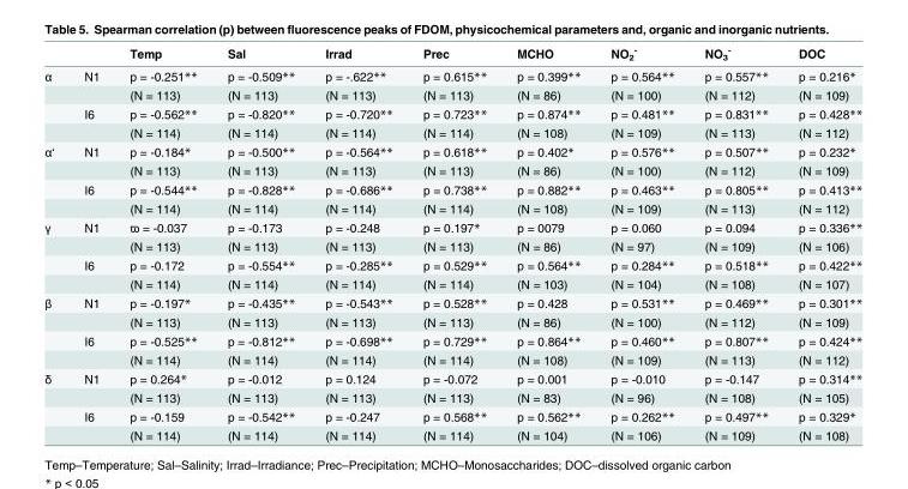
<table><thead><tr><td></td><td></td><td>Temp</td><td>Sal</td><td>Irrad</td><td>Prec</td><td>MCHO</td><td>NO<sub>2</sub> <sup>-</sup></td><td>NO<sub>3</sub> <sup>-</sup></td><td>DOC</td></tr></thead><tbody><tr><td rowspan="4">α</td><td>N1</td><td>p = -0.251**</td><td>p = -0.509**</td><td>p = -.622**</td><td>p = 0.615**</td><td>p = 0.399**</td><td>p = 0.564**</td><td>p = 0.557**</td><td>p = 0.216*</td></tr><tr><td></td><td>(N = 113)</td><td>(N = 113)</td><td>(N = 113)</td><td>(N = 113)</td><td>(N = 86)</td><td>(N = 100)</td><td>(N = 112)</td><td>(N = 109)</td></tr><tr><td>I6</td><td>p = -0.562**</td><td>p = -0.820**</td><td>p = -0.720**</td><td>p = 0.723**</td><td>p = 0.874**</td><td>p = 0.481**</td><td>p = 0.831**</td><td>p = 0.428**</td></tr><tr><td></td><td>(N = 114)</td><td>(N = 114)</td><td>(N = 114)</td><td>(N = 114)</td><td>(N = 108)</td><td>(N = 109)</td><td>(N = 113)</td><td>(N = 112)</td></tr><tr><td rowspan="4">α‘</td><td>N1</td><td>p = -0.184*</td><td>p = -0.500**</td><td>p = -0.564**</td><td>p = 0.618**</td><td>p = 0.402*</td><td>p = 0.576**</td><td>p = 0.507**</td><td>p = 0.232*</td></tr><tr><td></td><td>(N = 113)</td><td>(N = 113)</td><td>(N = 113)</td><td>(N = 113)</td><td>(N = 86)</td><td>(N = 100)</td><td>(N = 112)</td><td>(N = 109)</td></tr><tr><td>I6</td><td>p = -0.544**</td><td>p = -0.828**</td><td>p = -0.686**</td><td>p = 0.738**</td><td>p = 0.882**</td><td>p = 0.463**</td><td>p = 0.805**</td><td>p = 0.413**</td></tr><tr><td></td><td>(N = 114)</td><td>(N = 114)</td><td>(N = 114)</td><td>(N = 114)</td><td>(N = 108)</td><td>(N = 109)</td><td>(N = 113)</td><td>(N = 112)</td></tr><tr><td rowspan="4">γ</td><td>N1</td><td>ϖ = -0.037</td><td>p = -0.173</td><td>p = -0.248</td><td>p = 0.197*</td><td>p = 0079</td><td>p = 0.060</td><td>p = 0.094</td><td>p = 0.336**</td></tr><tr><td></td><td>(N = 113)</td><td>(N = 113)</td><td>(N = 113)</td><td>(N = 113)</td><td>(N = 86)</td><td>(N = 97)</td><td>(N = 109)</td><td>(N = 106)</td></tr><tr><td>I6</td><td>p = -0.172</td><td>p = -0.554**</td><td>p = -0.285**</td><td>p = 0.529**</td><td>p = 0.564**</td><td>p = 0.284**</td><td>p = 0.518**</td><td>p = 0.422**</td></tr><tr><td></td><td>(N = 114)</td><td>(N = 114)</td><td>(N = 114)</td><td>(N = 114)</td><td>(N = 103)</td><td>(N = 104)</td><td>(N = 108)</td><td>(N = 107)</td></tr><tr><td rowspan="4">β</td><td>N1</td><td>p = -0.197*</td><td>p = -0.435**</td><td>p = -0.543**</td><td>p = 0.528**</td><td>p = 0.428</td><td>p = 0.531**</td><td>p = 0.469**</td><td>p = 0.301**</td></tr><tr><td></td><td>(N = 113)</td><td>(N = 113)</td><td>(N = 113)</td><td>(N = 113)</td><td>(N = 86)</td><td>(N = 100)</td><td>(N = 112)</td><td>(N = 109)</td></tr><tr><td>I6</td><td>p = -0.525**</td><td>p = -0.812**</td><td>p = -0.698**</td><td>p = 0.729**</td><td>p = 0.864**</td><td>p = 0.460**</td><td>p = 0.807**</td><td>p = 0.424**</td></tr><tr><td></td><td>(N = 114)</td><td>(N = 114)</td><td>(N = 114)</td><td>(N = 114)</td><td>(N = 108)</td><td>(N = 109)</td><td>(N = 113)</td><td>(N = 112)</td></tr><tr><td rowspan="4">δ</td><td>N1</td><td>p = 0.264*</td><td>p = -0.012</td><td>p = 0.124</td><td>p = -0.072</td><td>p = 0.001</td><td>p = -0.010</td><td>p = -0.147</td><td>p = 0.314**</td></tr><tr><td></td><td>(N = 113)</td><td>(N = 113)</td><td>(N = 113)</td><td>(N = 113)</td><td>(N = 83)</td><td>(N = 96)</td><td>(N = 108)</td><td>(N = 105)</td></tr><tr><td>I6</td><td>p = -0.159</td><td>p = -0.542**</td><td>p = -0.247</td><td>p = 0.568**</td><td>p = 0.562**</td><td>p = 0.262**</td><td>p = 0.497**</td><td>p = 0.329*</td></tr><tr><td></td><td>(N = 114)</td><td>(N = 114)</td><td>(N = 114)</td><td>(N = 114)</td><td>(N = 104)</td><td>(N = 106)</td><td>(N = 109)</td><td>(N = 108)</td></tr></tbody></table>